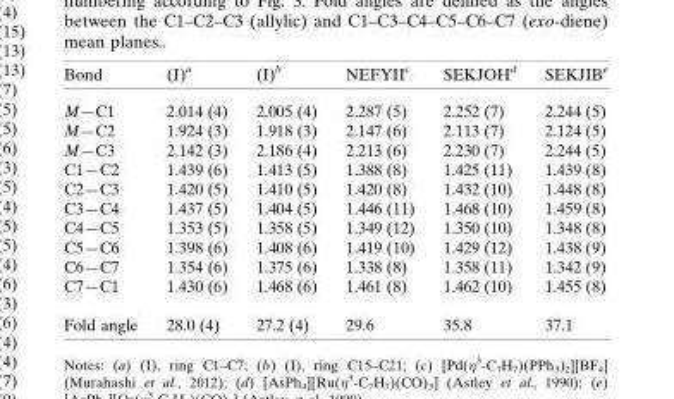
<table><thead><tr><td>Bond</td><td>(I)a</td><td>(I)b</td><td>NEFYIIc</td><td>SEKJOHd</td><td>SEKJIBe</td></tr></thead><tbody><tr><td>M—C1</td><td>2.014 (4)</td><td>2.005 (4)</td><td>2.287 (5)</td><td>2.252 (7)</td><td>2.244 (5)</td></tr><tr><td>M—C2</td><td>1.924 (3)</td><td>1.918 (3)</td><td>2.147 (6)</td><td>2.113 (7)</td><td>2.124 (5)</td></tr><tr><td>M—C3</td><td>2.142 (3)</td><td>2.186 (4)</td><td>2.213 (6)</td><td>2.230 (7)</td><td>2.244 (5)</td></tr><tr><td>C1—C2</td><td>1.439 (6)</td><td>1.413 (5)</td><td>1.388 (8)</td><td>1.425 (11)</td><td>1.439 (8)</td></tr><tr><td>C2—C3</td><td>1.420 (5)</td><td>1.410 (5)</td><td>1.420 (8)</td><td>1.432 (10)</td><td>1.448 (8)</td></tr><tr><td>C3—C4</td><td>1.437 (5)</td><td>1.404 (5)</td><td>1.446 (11)</td><td>1.468 (10)</td><td>1.459 (8)</td></tr><tr><td>C4—C5</td><td>1.353 (5)</td><td>1.358 (5)</td><td>1.349 (12)</td><td>1.350 (10)</td><td>1.348 (8)</td></tr><tr><td>C5—C6</td><td>1.398 (6)</td><td>1.408 (6)</td><td>1.419 (10)</td><td>1.429 (12)</td><td>1.438 (9)</td></tr><tr><td>C6—C7</td><td>1.354 (6)</td><td>1.375 (6)</td><td>1.338 (8)</td><td>1.358 (11)</td><td>1.342 (9)</td></tr><tr><td>C7—C1</td><td>1.430 (6)</td><td>1.468 (6)</td><td>1.461 (8)</td><td>1.462 (10)</td><td>1.455 (8)</td></tr><tr><td>Fold angle</td><td>28.0 (4)</td><td>27.2 (4)</td><td>29.6</td><td>35.8</td><td>37.1</td></tr></tbody></table>